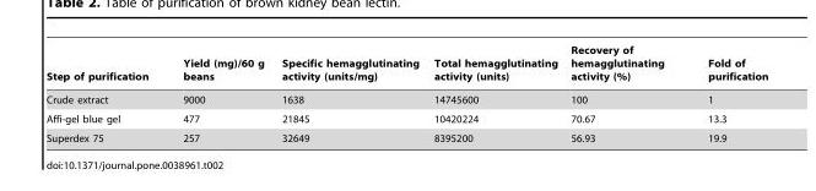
<table><thead><tr><td>Step of purification</td><td>Yield (mg)/60 g beans</td><td>Specific hemagglutinating activity (units/mg)</td><td>Total hemagglutinating activity (units)</td><td>Recovery of hemagglutinating activity (%)</td><td>Fold of purification</td></tr></thead><tbody><tr><td>Crude extract</td><td>9000</td><td>1638</td><td>14745600</td><td>100</td><td>1</td></tr><tr><td>Affi-gel blue gel</td><td>477</td><td>21845</td><td>10420224</td><td>70.67</td><td>13.3</td></tr><tr><td>Superdex 75</td><td>257</td><td>32649</td><td>8395200</td><td>56.93</td><td>19.9</td></tr></tbody></table>